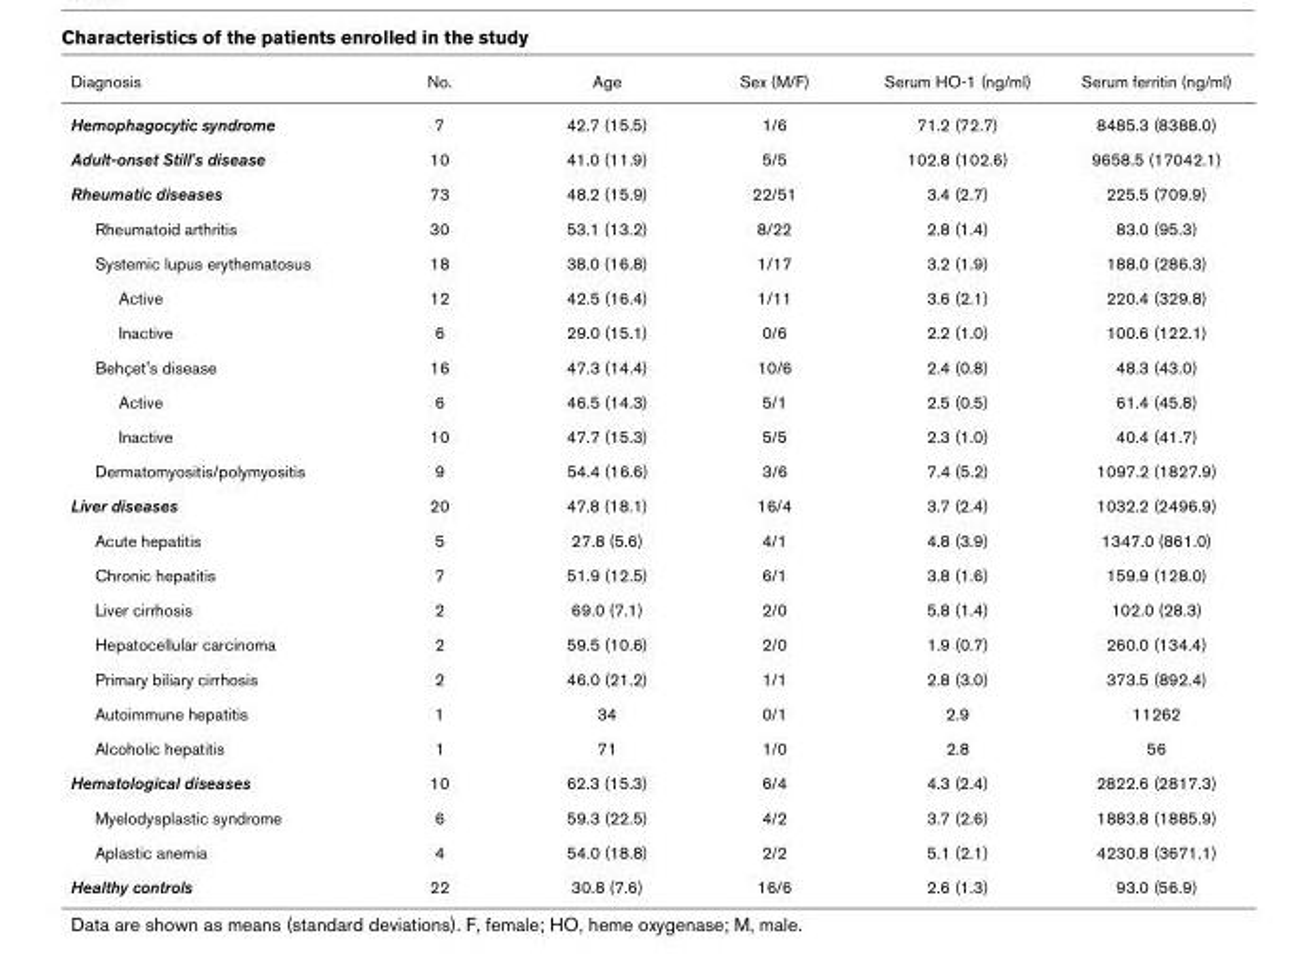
<table><thead><tr><td>Diagnosis</td><td>No.</td><td>Age</td><td>Sex (M/F)</td><td>Serum HO-1 (ng/ml)</td><td>Serum ferritin (ng/ml)</td></tr></thead><tbody><tr><td>Hemophagocytic syndrome</td><td>7</td><td>42.7 (15.5)</td><td>1/6</td><td>71.2 (72.7)</td><td>8485.3 (8388.0)</td></tr><tr><td>Adult-onset Still&#x27;s disease</td><td>10</td><td>41.0 (11.9)</td><td>5/5</td><td>102.8 (102.6)</td><td>9658.5 (17042.1)</td></tr><tr><td>Rheumatic diseases</td><td>73</td><td>48.2 (15.9)</td><td>22/51</td><td>3.4 (2.7)</td><td>225.5 (709.9)</td></tr><tr><td>Rheumatoid arthritis</td><td>30</td><td>53.1 (13.2)</td><td>8/22</td><td>2.8 (1.4)</td><td>83.0 (95.3)</td></tr><tr><td>Systemic lupus erythematosus</td><td>18</td><td>38.0 (16.8)</td><td>1/17</td><td>3.2 (1.9)</td><td>188.0 (286.3)</td></tr><tr><td>Active</td><td>12</td><td>42.5 (16.4)</td><td>1/11</td><td>3.6 (2.1)</td><td>220.4 (329.8)</td></tr><tr><td>Inactive</td><td>6</td><td>29.0 (15.1)</td><td>0/6</td><td>2.2 (1.0)</td><td>100.6 (122.1)</td></tr><tr><td>Behçet&#x27;s disease</td><td>16</td><td>47.3 (14.4)</td><td>10/6</td><td>2.4 (0.8)</td><td>48.3 (43.0)</td></tr><tr><td>Active</td><td>6</td><td>46.5 (14.3)</td><td>5/1</td><td>2.5 (0.5)</td><td>61.4 (45.8)</td></tr><tr><td>Inactive</td><td>10</td><td>47.7 (15.3)</td><td>5/5</td><td>2.3 (1.0)</td><td>40.4 (41.7)</td></tr><tr><td>Dermatomyositis/polymyositis</td><td>9</td><td>54.4 (16.6)</td><td>3/6</td><td>7.4 (5.2)</td><td>1097.2 (1827.9)</td></tr><tr><td>Liver diseases</td><td>20</td><td>47.8 (18.1)</td><td>16/4</td><td>3.7 (2.4)</td><td>1032.2 (2496.9)</td></tr><tr><td>Acute hepatitis</td><td>5</td><td>27.8 (5.6)</td><td>4/1</td><td>4.8 (3.9)</td><td>1347.0 (861.0)</td></tr><tr><td>Chronic hepatitis</td><td>7</td><td>51.9 (12.5)</td><td>6/1</td><td>3.8 (1.6)</td><td>159.9 (128.0)</td></tr><tr><td>Liver cirrhosis</td><td>2</td><td>69.0 (7.1)</td><td>2/0</td><td>5.8 (1.4)</td><td>102.0 (28.3)</td></tr><tr><td>Hepatocellular carcinoma</td><td>2</td><td>59.5 (10.6)</td><td>2/0</td><td>1.9 (0.7)</td><td>260.0 (134.4)</td></tr><tr><td>Primary biliary cirrhosis</td><td>2</td><td>46.0 (21.2)</td><td>1/1</td><td>2.8 (3.0)</td><td>373.5 (892.4)</td></tr><tr><td>Autoimmune hepatitis</td><td>1</td><td>34</td><td>0/1</td><td>2.9</td><td>11262</td></tr><tr><td>Alcoholic hepatitis</td><td>1</td><td>71</td><td>1/0</td><td>2.8</td><td>56</td></tr><tr><td>Hematological diseases</td><td>10</td><td>62.3 (15.3)</td><td>6/4</td><td>4.3 (2.4)</td><td>2822.6 (2817.3)</td></tr><tr><td>Myelodysplastic syndrome</td><td>6</td><td>59.3 (22.5)</td><td>4/2</td><td>3.7 (2.6)</td><td>1883.8 (1885.9)</td></tr><tr><td>Aplastic anemia</td><td>4</td><td>54.0 (18.8)</td><td>2/2</td><td>5.1 (2.1)</td><td>4230.8 (3671.1)</td></tr><tr><td>Healthy controls</td><td>22</td><td>30.8 (7.6)</td><td>16/6</td><td>2.6 (1.3)</td><td>93.0 (56.9)</td></tr></tbody></table>